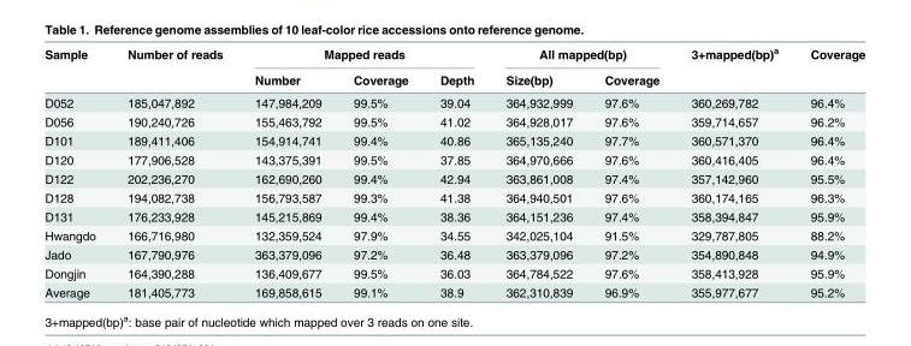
<table><thead><tr><td rowspan="2">Sample</td><td rowspan="2">Number of reads</td><td colspan="3">Mapped reads</td><td colspan="2">All mapped(bp)</td><td rowspan="2">3+mapped(bp)<sup>a</sup></td><td rowspan="2">Coverage</td></tr><tr><td>Number</td><td>Coverage</td><td>Depth</td><td>Size(bp)</td><td>Coverage</td></tr></thead><tbody><tr><td>D052</td><td>185,047,892</td><td>147,984,209</td><td>99.5%</td><td>39.04</td><td>364,932,999</td><td>97.6%</td><td>360,269,782</td><td>96.4%</td></tr><tr><td>D056</td><td>190,240,726</td><td>155,463,792</td><td>99.5%</td><td>41.02</td><td>364,928,017</td><td>97.6%</td><td>359,714,657</td><td>96.2%</td></tr><tr><td>D101</td><td>189,411,406</td><td>154,914,741</td><td>99.4%</td><td>40.86</td><td>365,135,240</td><td>97.7%</td><td>360,571,370</td><td>96.4%</td></tr><tr><td>D120</td><td>177,906,528</td><td>143,375,391</td><td>99.5%</td><td>37.85</td><td>364,970,666</td><td>97.6%</td><td>360,416,405</td><td>96.4%</td></tr><tr><td>D122</td><td>202,236,270</td><td>162,690,260</td><td>99.4%</td><td>42.94</td><td>363,861,008</td><td>97.4%</td><td>357,142,960</td><td>95.5%</td></tr><tr><td>D128</td><td>194,082,738</td><td>156,793,587</td><td>99.3%</td><td>41.38</td><td>364,940,501</td><td>97.6%</td><td>360,174,165</td><td>96.3%</td></tr><tr><td>D131</td><td>176,233,928</td><td>145,215,869</td><td>99.4%</td><td>38.36</td><td>364,151,236</td><td>97.4%</td><td>358,394,847</td><td>95.9%</td></tr><tr><td>Hwangdo</td><td>166,716,980</td><td>132,359,524</td><td>97.9%</td><td>34.55</td><td>342,025,104</td><td>91.5%</td><td>329,787,805</td><td>88.2%</td></tr><tr><td>Jado</td><td>167,790,976</td><td>363,379,096</td><td>97.2%</td><td>36.48</td><td>363,379,096</td><td>97.2%</td><td>354,890,848</td><td>94.9%</td></tr><tr><td>Dongjin</td><td>164,390,288</td><td>136,409,677</td><td>99.5%</td><td>36.03</td><td>364,784,522</td><td>97.6%</td><td>358,413,928</td><td>95.9%</td></tr><tr><td>Average</td><td>181,405,773</td><td>169,858,615</td><td>99.1%</td><td>38.9</td><td>362,310,839</td><td>96.9%</td><td>355,977,677</td><td>95.2%</td></tr></tbody></table>